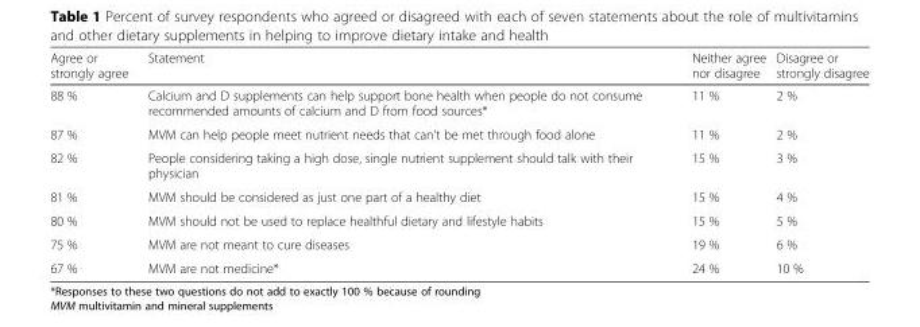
<table><thead><tr><td>Agree or strongly agree</td><td>Statement</td><td>Neither agree nor disagree</td><td>Disagree or strongly disagree</td></tr></thead><tbody><tr><td>88 %</td><td>Calcium and D supplements can help support bone health when people do not consume recommended amounts of calcium and D from food sources*</td><td>11 %</td><td>2 %</td></tr><tr><td>87 %</td><td>MVM can help people meet nutrient needs that can’t be met through food alone</td><td>11 %</td><td>2 %</td></tr><tr><td>82 %</td><td>People considering taking a high dose, single nutrient supplement should talk with their physician</td><td>15 %</td><td>3 %</td></tr><tr><td>81 %</td><td>MVM should be considered as just one part of a healthy diet</td><td>15 %</td><td>4 %</td></tr><tr><td>80 %</td><td>MVM should not be used to replace healthful dietary and lifestyle habits</td><td>15 %</td><td>5 %</td></tr><tr><td>75 %</td><td>MVM are not meant to cure diseases</td><td>19 %</td><td>6 %</td></tr><tr><td>67 %</td><td>MVM are not medicine*</td><td>24 %</td><td>10 %</td></tr></tbody></table>